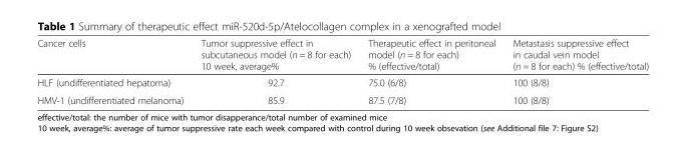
<table><thead><tr><td>Cancer cells</td><td>Tumor suppressive effect in subcutaneous model (n = 8 for each) 10 week, average%</td><td>Therapeutic effect in peritoneal model (n = 8 for each) % (effective/total)</td><td>Metastasis suppressive effect in caudal vein model (n = 8 for each) % (effective/total)</td></tr></thead><tbody><tr><td>HLF (undifferentiated hepatoma)</td><td>92.7</td><td>75.0 (6/8)</td><td>100 (8/8)</td></tr><tr><td>HMV-1 (undifferentiated melanoma)</td><td>85.9</td><td>87.5 (7/8)</td><td>100 (8/8)</td></tr></tbody></table>